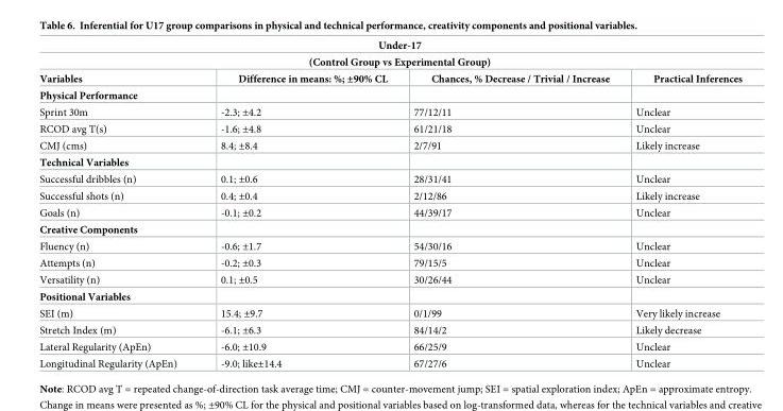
<table><thead><tr><td rowspan="2" colspan="4">Under-17 (Control Group vs Experimental Group)</td></tr><tr></tr><tr><td>Variables</td><td>Difference in means: %; ±90% CL</td><td>Chances, % Decrease / Trivial / Increase</td><td>Practical Inferences</td></tr></thead><tbody><tr><td colspan="4">Physical Performance</td></tr><tr><td>Sprint 30m</td><td>-2.3; ±4.2</td><td>77/12/11</td><td>Unclear</td></tr><tr><td>RCOD avg T(s)</td><td>-1.6; ±4.8</td><td>61/21/18</td><td>Unclear</td></tr><tr><td>CMJ (cms)</td><td>8.4; ±8.4</td><td>2/7/91</td><td>Likely increase</td></tr><tr><td colspan="4">Technical Variables</td></tr><tr><td>Successful dribbles (n)</td><td>0.1; ±0.6</td><td>28/31/41</td><td>Unclear</td></tr><tr><td>Successful shots (n)</td><td>0.4; ±0.4</td><td>2/12/86</td><td>Likely increase</td></tr><tr><td>Goals (n)</td><td>-0.1; ±0.2</td><td>44/39/17</td><td>Unclear</td></tr><tr><td colspan="4">Creative Components</td></tr><tr><td>Fluency (n)</td><td>-0.6; ±1.7</td><td>54/30/16</td><td>Unclear</td></tr><tr><td>Attempts (n)</td><td>-0.2; ±0.3</td><td>79/15/5</td><td>Unclear</td></tr><tr><td>Versatility (n)</td><td>0.1; ±0.5</td><td>30/26/44</td><td>Unclear</td></tr><tr><td colspan="4">Positional Variables</td></tr><tr><td>SEI (m)</td><td>15.4; ±9.7</td><td>0/1/99</td><td>Very likely increase</td></tr><tr><td>Stretch Index (m)</td><td>-6.1; ±6.3</td><td>84/14/2</td><td>Likely decrease</td></tr><tr><td>Lateral Regularity (ApEn)</td><td>-6.0; ±10.9</td><td>66/25/9</td><td>Unclear</td></tr><tr><td>Longitudinal Regularity (ApEn)</td><td>-9.0; like±14.4</td><td>67/27/6</td><td>Unclear</td></tr></tbody></table>